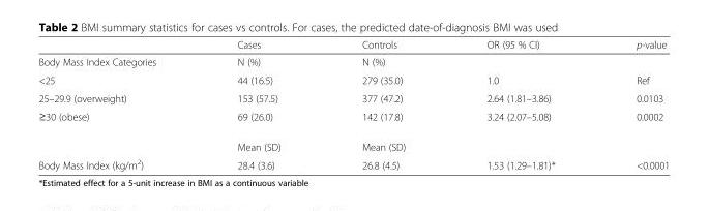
<table><thead><tr><td></td><td>Cases</td><td>Controls</td><td>OR (95 % CI)</td><td>p-value</td></tr></thead><tbody><tr><td>Body Mass Index Categories</td><td>N (%)</td><td>N (%)</td><td></td><td></td></tr><tr><td>&lt;25</td><td>44 (16.5)</td><td>279 (35.0)</td><td>1.0</td><td>Ref</td></tr><tr><td>25–29.9 (overweight)</td><td>153 (57.5)</td><td>377 (47.2)</td><td>2.64 (1.81–3.86)</td><td>0.0103</td></tr><tr><td rowspan="2">≥30 (obese)</td><td>69 (26.0)</td><td>142 (17.8)</td><td>3.24 (2.07–5.08)</td><td>0.0002</td></tr><tr><td>Mean (SD)</td><td>Mean (SD)</td><td></td><td></td></tr><tr><td>Body Mass Index (kg/m<sup>2</sup>)</td><td>28.4 (3.6)</td><td>26.8 (4.5)</td><td>1.53 (1.29–1.81)*</td><td>&lt;0.0001</td></tr></tbody></table>